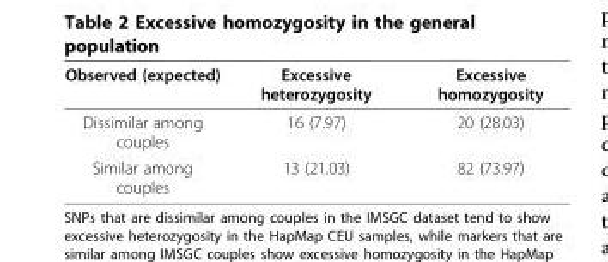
<table><thead><tr><td>Observed (expected)</td><td>Excessive heterozygosity</td><td>Excessive homozygosity</td></tr></thead><tbody><tr><td>Dissimilar among couples</td><td>16 (7.97)</td><td>20 (28.03)</td></tr><tr><td>Similar among couples</td><td>13 (21.03)</td><td>82 (73.97)</td></tr></tbody></table>